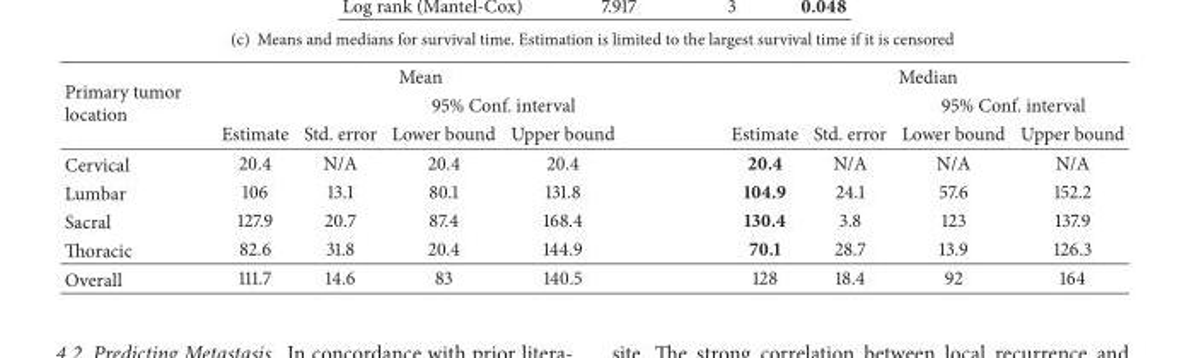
<table><thead><tr><td rowspan="3">Primary tumor location</td><td colspan="4">Mean</td><td colspan="4">Median</td></tr><tr><td rowspan="2">Estimate</td><td rowspan="2">Std. error</td><td colspan="2">95% Conf. interval</td><td rowspan="2">Estimate</td><td rowspan="2">Std. error</td><td colspan="2">95% Conf. interval</td></tr><tr><td>Lower bound</td><td>Upper bound</td><td>Lower bound</td><td>Upper bound</td></tr></thead><tbody><tr><td>Cervical</td><td>20.4</td><td>N/A</td><td>20.4</td><td>20.4</td><td>20.4</td><td>N/A</td><td>N/A</td><td>N/A</td></tr><tr><td>Lumbar</td><td>106</td><td>13.1</td><td>80.1</td><td>131.8</td><td>104.9</td><td>24.1</td><td>57.6</td><td>152.2</td></tr><tr><td>Sacral</td><td>127.9</td><td>20.7</td><td>87.4</td><td>168.4</td><td>130.4</td><td>3.8</td><td>123</td><td>137.9</td></tr><tr><td>Thoracic</td><td>82.6</td><td>31.8</td><td>20.4</td><td>144.9</td><td>70.1</td><td>28.7</td><td>13.9</td><td>126.3</td></tr><tr><td>Overall</td><td>111.7</td><td>14.6</td><td>83</td><td>140.5</td><td>128</td><td>18.4</td><td>92</td><td>164</td></tr></tbody></table>